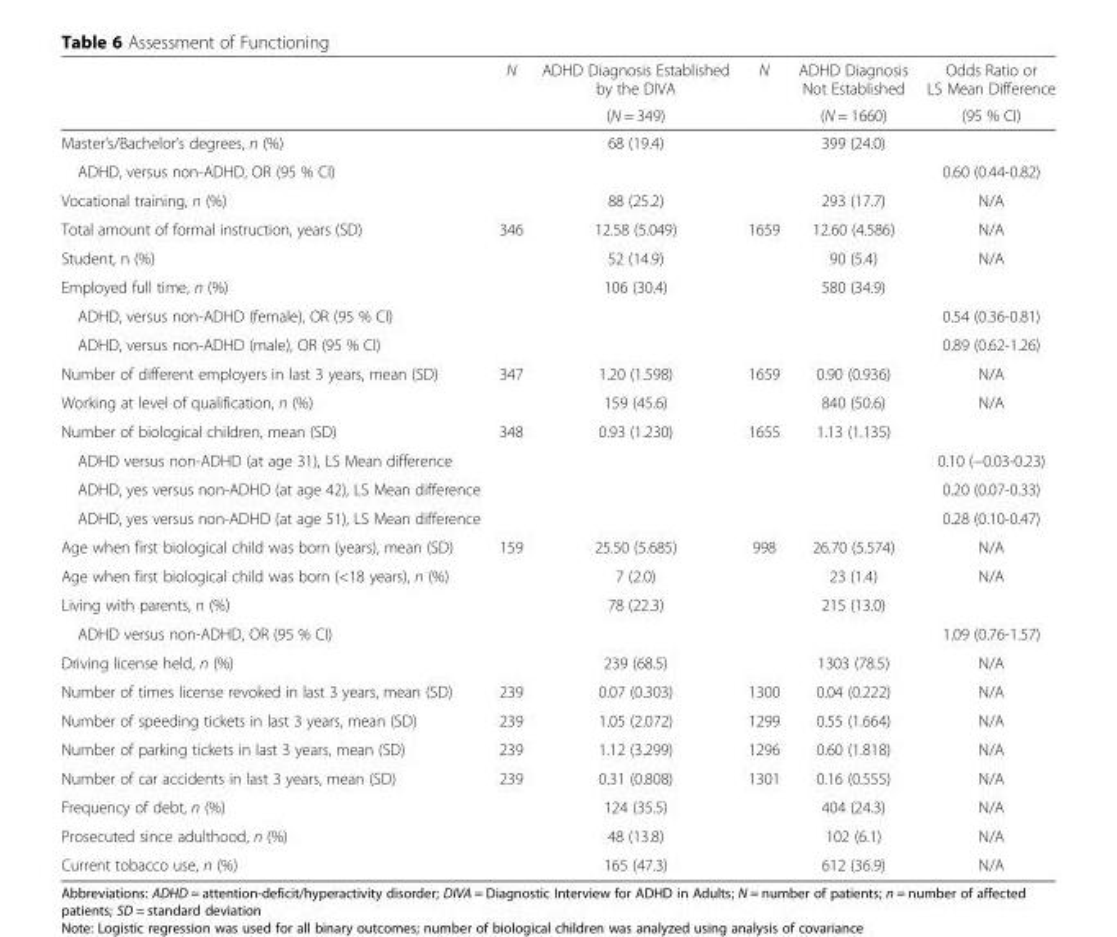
<table><thead><tr><td rowspan="2"></td><td rowspan="2">N</td><td rowspan="2">ADHD Diagnosis Established by the DIVA (N = 349)</td><td rowspan="2">N</td><td rowspan="2">ADHD Diagnosis Not Established (N = 1660)</td><td rowspan="2">Odds Ratio or LS Mean Difference (95 % CI)</td></tr><tr></tr></thead><tbody><tr><td>Master’s/Bachelor’s degrees, n (%)</td><td></td><td>68 (19.4)</td><td></td><td>399 (24.0)</td><td></td></tr><tr><td>ADHD, versus non-ADHD, OR (95 % CI)</td><td></td><td></td><td></td><td></td><td>0.60 (0.44-0.82)</td></tr><tr><td>Vocational training, n (%)</td><td></td><td>88 (25.2)</td><td></td><td>293 (17.7)</td><td>N/A</td></tr><tr><td>Total amount of formal instruction, years (SD)</td><td>346</td><td>12.58 (5.049)</td><td>1659</td><td>12.60 (4.586)</td><td>N/A</td></tr><tr><td>Student, n (%)</td><td></td><td>52 (14.9)</td><td></td><td>90 (5.4)</td><td>N/A</td></tr><tr><td>Employed full time, n (%)</td><td></td><td>106 (30.4)</td><td></td><td>580 (34.9)</td><td></td></tr><tr><td>ADHD, versus non-ADHD (female), OR (95 % CI)</td><td></td><td></td><td></td><td></td><td>0.54 (0.36-0.81)</td></tr><tr><td>ADHD, versus non-ADHD (male), OR (95 % CI)</td><td></td><td></td><td></td><td></td><td>0.89 (0.62-1.26)</td></tr><tr><td>Number of different employers in last 3 years, mean (SD)</td><td>347</td><td>1.20 (1.598)</td><td>1659</td><td>0.90 (0.936)</td><td>N/A</td></tr><tr><td>Working at level of qualification, n (%)</td><td></td><td>159 (45.6)</td><td></td><td>840 (50.6)</td><td>N/A</td></tr><tr><td>Number of biological children, mean (SD)</td><td>348</td><td>0.93 (1.230)</td><td>1655</td><td>1.13 (1.135)</td><td></td></tr><tr><td>ADHD versus non-ADHD (at age 31), LS Mean difference</td><td></td><td></td><td></td><td></td><td>0.10 (−0.03-0.23)</td></tr><tr><td>ADHD, yes versus non-ADHD (at age 42), LS Mean difference</td><td></td><td></td><td></td><td></td><td>0.20 (0.07-0.33)</td></tr><tr><td>ADHD, yes versus non-ADHD (at age 51), LS Mean difference</td><td></td><td></td><td></td><td></td><td>0.28 (0.10-0.47)</td></tr><tr><td>Age when first biological child was born (years), mean (SD)</td><td>159</td><td>25.50 (5.685)</td><td>998</td><td>26.70 (5.574)</td><td>N/A</td></tr><tr><td>Age when first biological child was born (&lt;18 years), n (%)</td><td></td><td>7 (2.0)</td><td></td><td>23 (1.4)</td><td>N/A</td></tr><tr><td>Living with parents, n (%)</td><td></td><td>78 (22.3)</td><td></td><td>215 (13.0)</td><td></td></tr><tr><td>ADHD versus non-ADHD, OR (95 % CI)</td><td></td><td></td><td></td><td></td><td>1.09 (0.76-1.57)</td></tr><tr><td>Driving license held, n (%)</td><td></td><td>239 (68.5)</td><td></td><td>1303 (78.5)</td><td>N/A</td></tr><tr><td>Number of times license revoked in last 3 years, mean (SD)</td><td>239</td><td>0.07 (0.303)</td><td>1300</td><td>0.04 (0.222)</td><td>N/A</td></tr><tr><td>Number of speeding tickets in last 3 years, mean (SD)</td><td>239</td><td>1.05 (2.072)</td><td>1299</td><td>0.55 (1.664)</td><td>N/A</td></tr><tr><td>Number of parking tickets in last 3 years, mean (SD)</td><td>239</td><td>1.12 (3.299)</td><td>1296</td><td>0.60 (1.818)</td><td>N/A</td></tr><tr><td>Number of car accidents in last 3 years, mean (SD)</td><td>239</td><td>0.31 (0.808)</td><td>1301</td><td>0.16 (0.555)</td><td>N/A</td></tr><tr><td>Frequency of debt, n (%)</td><td></td><td>124 (35.5)</td><td></td><td>404 (24.3)</td><td>N/A</td></tr><tr><td>Prosecuted since adulthood, n (%)</td><td></td><td>48 (13.8)</td><td></td><td>102 (6.1)</td><td>N/A</td></tr><tr><td>Current tobacco use, n (%)</td><td></td><td>165 (47.3)</td><td></td><td>612 (36.9)</td><td>N/A</td></tr></tbody></table>